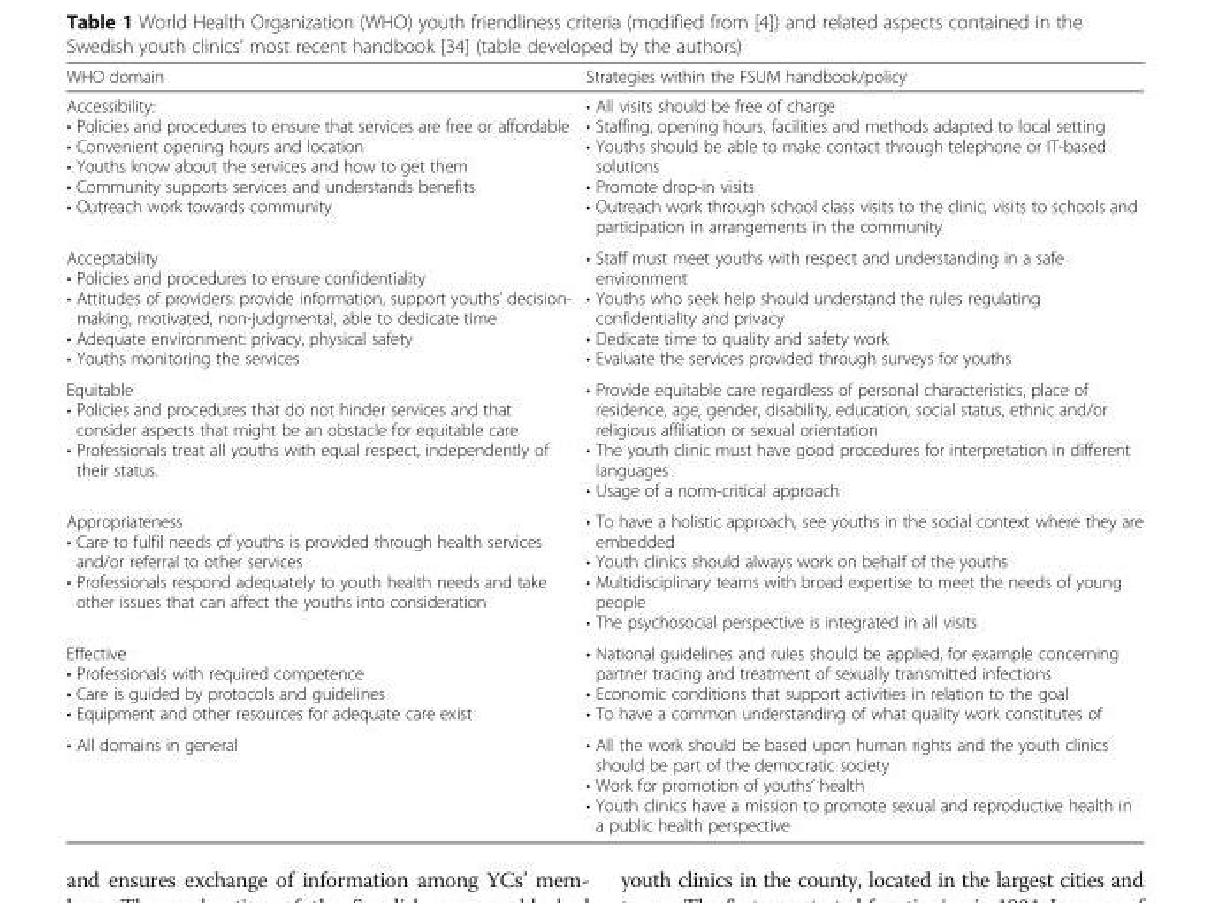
<table><thead><tr><td>WHO domain</td><td>Strategies within the FSUM handbook/policy</td></tr></thead><tbody><tr><td>Accessibility: • Policies and procedures to ensure that services are free or affordable • Convenient opening hours and location • Youths know about the services and how to get them • Community supports services and understands benefits • Outreach work towards community</td><td>• All visits should be free of charge • Staffing, opening hours, facilities and methods adapted to local setting • Youths should be able to make contact through telephone or IT-based solutions • Promote drop-in visits • Outreach work through school class visits to the clinic, visits to schools and participation in arrangements in the community</td></tr><tr><td>Acceptability • Policies and procedures to ensure confidentiality • Attitudes of providers: provide information, support youths’ decision- making, motivated, non-judgmental, able to dedicate time • Adequate environment: privacy, physical safety • Youths monitoring the services</td><td>• Staff must meet youths with respect and understanding in a safe environment • Youths who seek help should understand the rules regulating confidentiality and privacy • Dedicate time to quality and safety work • Evaluate the services provided through surveys for youths</td></tr><tr><td>Equitable • Policies and procedures that do not hinder services and that consider aspects that might be an obstacle for equitable care • Professionals treat all youths with equal respect, independently of their status.</td><td>• Provide equitable care regardless of personal characteristics, place of residence, age, gender, disability, education, social status, ethnic and/or religious affiliation or sexual orientation • The youth clinic must have good procedures for interpretation in different languages • Usage of a norm-critical approach</td></tr><tr><td>Appropriateness • Care to fulfil needs of youths is provided through health services and/or referral to other services • Professionals respond adequately to youth health needs and take other issues that can affect the youths into consideration</td><td>• To have a holistic approach, see youths in the social context where they are embedded • Youth clinics should always work on behalf of the youths • Multidisciplinary teams with broad expertise to meet the needs of young people • The psychosocial perspective is integrated in all visits</td></tr><tr><td>Effective • Professionals with required competence • Care is guided by protocols and guidelines • Equipment and other resources for adequate care exist</td><td>• National guidelines and rules should be applied, for example concerning partner tracing and treatment of sexually transmitted infections • Economic conditions that support activities in relation to the goal • To have a common understanding of what quality work constitutes of</td></tr><tr><td>• All domains in general</td><td>• All the work should be based upon human rights and the youth clinics should be part of the democratic society • Work for promotion of youths’ health • Youth clinics have a mission to promote sexual and reproductive health in a public health perspective</td></tr></tbody></table>